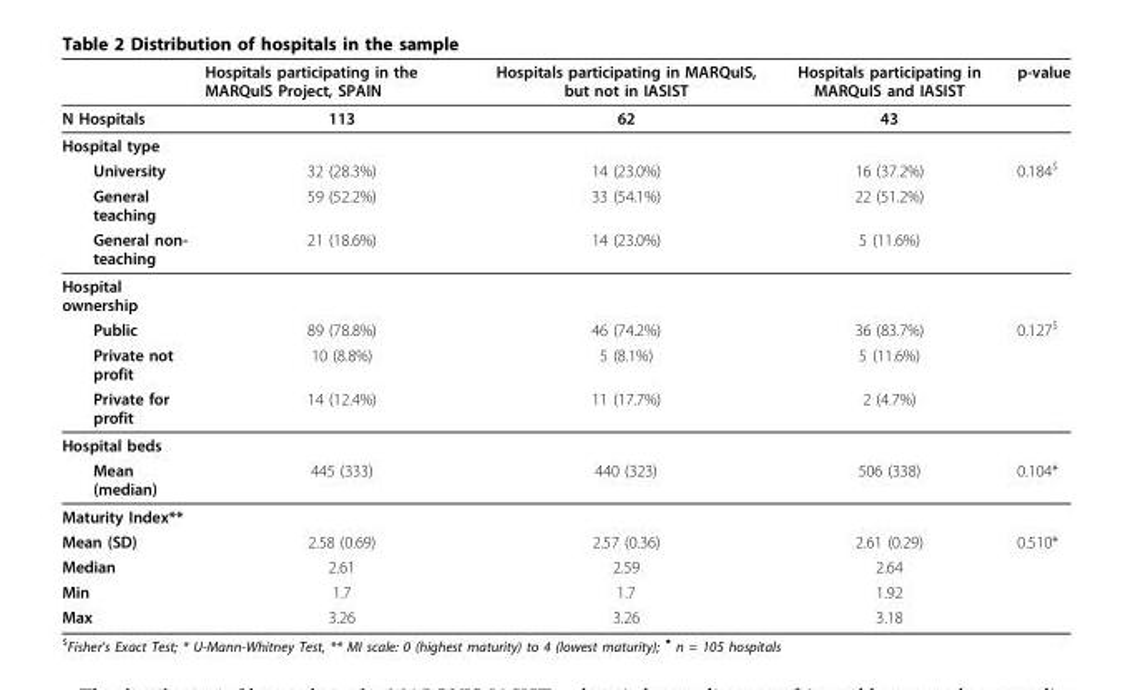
<table><thead><tr><td></td><td>Hospitals participating in the MARQuIS Project, SPAIN</td><td>Hospitals participating in MARQuIS, but not in IASIST</td><td>Hospitals participating in MARQuIS and IASIST</td><td>p-value</td></tr></thead><tbody><tr><td>N Hospitals</td><td>113</td><td>62</td><td>43</td><td></td></tr><tr><td colspan="5">Hospital type</td></tr><tr><td>University</td><td>32 (28.3%)</td><td>14 (23.0%)</td><td>16 (37.2%)</td><td>0.184<sup>$</sup></td></tr><tr><td>General teaching</td><td>59 (52.2%)</td><td>33 (54.1%)</td><td>22 (51.2%)</td><td></td></tr><tr><td>General non- teaching</td><td>21 (18.6%)</td><td>14 (23.0%)</td><td>5 (11.6%)</td><td></td></tr><tr><td colspan="5">Hospital ownership</td></tr><tr><td>Public</td><td>89 (78.8%)</td><td>46 (74.2%)</td><td>36 (83.7%)</td><td>0.127<sup>$</sup></td></tr><tr><td>Private not profit</td><td>10 (8.8%)</td><td>5 (8.1%)</td><td>5 (11.6%)</td><td></td></tr><tr><td>Private for profit</td><td>14 (12.4%)</td><td>11 (17.7%)</td><td>2 (4.7%)</td><td></td></tr><tr><td colspan="5">Hospital beds</td></tr><tr><td>Mean (median)</td><td>445 (333)</td><td>440 (323)</td><td>506 (338)</td><td>0.104*</td></tr><tr><td colspan="5">Maturity Index**</td></tr><tr><td>Mean (SD)</td><td>2.58 (0.69)</td><td>2.57 (0.36)</td><td>2.61 (0.29)</td><td>0.510*</td></tr><tr><td>Median</td><td>2.61</td><td>2.59</td><td>2.64</td><td></td></tr><tr><td>Min</td><td>1.7</td><td>1.7</td><td>1.92</td><td></td></tr><tr><td>Max</td><td>3.26</td><td>3.26</td><td>3.18</td><td></td></tr></tbody></table>